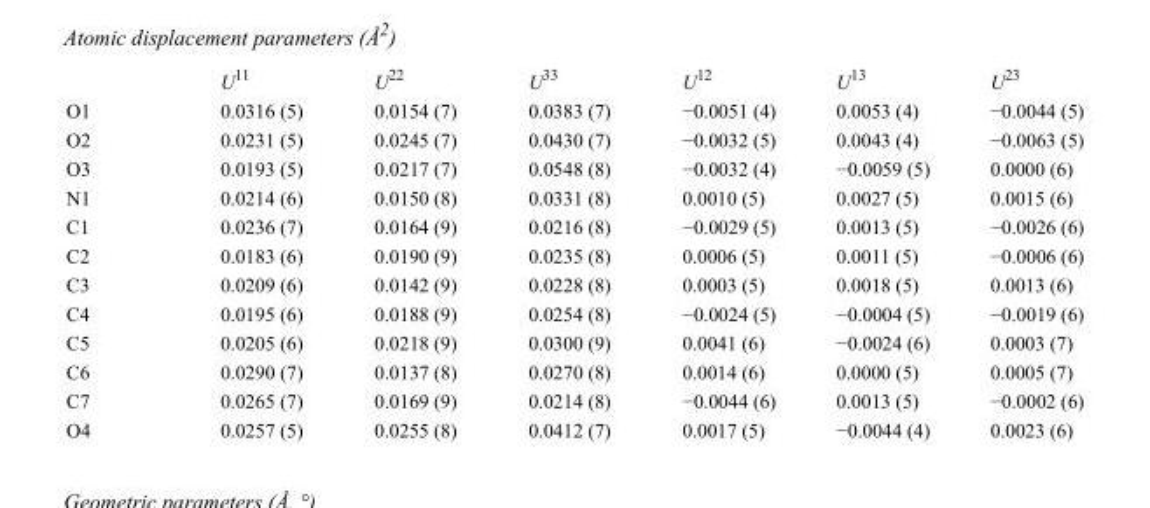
<table><thead><tr><td></td><td>U<sup>11</sup></td><td>U<sup>22</sup></td><td>U<sup>33</sup></td><td>U<sup>12</sup></td><td>U<sup>13</sup></td><td>U<sup>23</sup></td></tr></thead><tbody><tr><td>O1</td><td>0.0316 (5)</td><td>0.0154 (7)</td><td>0.0383 (7)</td><td>−0.0051 (4)</td><td>0.0053 (4)</td><td>−0.0044 (5)</td></tr><tr><td>O2</td><td>0.0231 (5)</td><td>0.0245 (7)</td><td>0.0430 (7)</td><td>−0.0032 (5)</td><td>0.0043 (4)</td><td>−0.0063 (5)</td></tr><tr><td>O3</td><td>0.0193 (5)</td><td>0.0217 (7)</td><td>0.0548 (8)</td><td>−0.0032 (4)</td><td>−0.0059 (5)</td><td>0.0000 (6)</td></tr><tr><td>N1</td><td>0.0214 (6)</td><td>0.0150 (8)</td><td>0.0331 (8)</td><td>0.0010 (5)</td><td>0.0027 (5)</td><td>0.0015 (6)</td></tr><tr><td>C1</td><td>0.0236 (7)</td><td>0.0164 (9)</td><td>0.0216 (8)</td><td>−0.0029 (5)</td><td>0.0013 (5)</td><td>−0.0026 (6)</td></tr><tr><td>C2</td><td>0.0183 (6)</td><td>0.0190 (9)</td><td>0.0235 (8)</td><td>0.0006 (5)</td><td>0.0011 (5)</td><td>−0.0006 (6)</td></tr><tr><td>C3</td><td>0.0209 (6)</td><td>0.0142 (9)</td><td>0.0228 (8)</td><td>0.0003 (5)</td><td>0.0018 (5)</td><td>0.0013 (6)</td></tr><tr><td>C4</td><td>0.0195 (6)</td><td>0.0188 (9)</td><td>0.0254 (8)</td><td>−0.0024 (5)</td><td>−0.0004 (5)</td><td>−0.0019 (6)</td></tr><tr><td>C5</td><td>0.0205 (6)</td><td>0.0218 (9)</td><td>0.0300 (9)</td><td>0.0041 (6)</td><td>−0.0024 (6)</td><td>0.0003 (7)</td></tr><tr><td>C6</td><td>0.0290 (7)</td><td>0.0137 (8)</td><td>0.0270 (8)</td><td>0.0014 (6)</td><td>0.0000 (5)</td><td>0.0005 (7)</td></tr><tr><td>C7</td><td>0.0265 (7)</td><td>0.0169 (9)</td><td>0.0214 (8)</td><td>−0.0044 (6)</td><td>0.0013 (5)</td><td>−0.0002 (6)</td></tr><tr><td>O4</td><td>0.0257 (5)</td><td>0.0255 (8)</td><td>0.0412 (7)</td><td>0.0017 (5)</td><td>−0.0044 (4)</td><td>0.0023 (6)</td></tr></tbody></table>